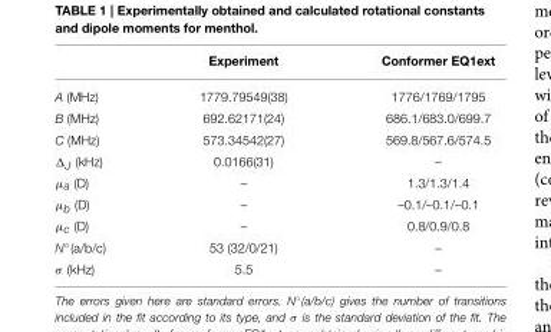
<table><thead><tr><td></td><td>Experiment</td><td>Conformer EQ1ext</td></tr></thead><tbody><tr><td>A (MHz)</td><td>1779.79549(38)</td><td>1776/1769/1795</td></tr><tr><td>B (MHz)</td><td>692.62171(24)</td><td>686.1/683.0/699.7</td></tr><tr><td>C (MHz)</td><td>573.34542(27)</td><td>569.8/567.6/574.5</td></tr><tr><td>Δ<sub>J</sub> (kHz)</td><td>0.0166(31)</td><td>–</td></tr><tr><td>µ<sub>a</sub> (D)</td><td>–</td><td>1.3/1.3/1.4</td></tr><tr><td>µ<sub>b</sub> (D)</td><td>–</td><td>–0.1/–0.1/–0.1</td></tr><tr><td>µ<sub>c</sub> (D)</td><td>–</td><td>0.8/0.9/0.8</td></tr><tr><td>N◦(a/b/c)</td><td>53 (32/0/21)</td><td>–</td></tr><tr><td>σ (kHz)</td><td>5.5</td><td>–</td></tr></tbody></table>